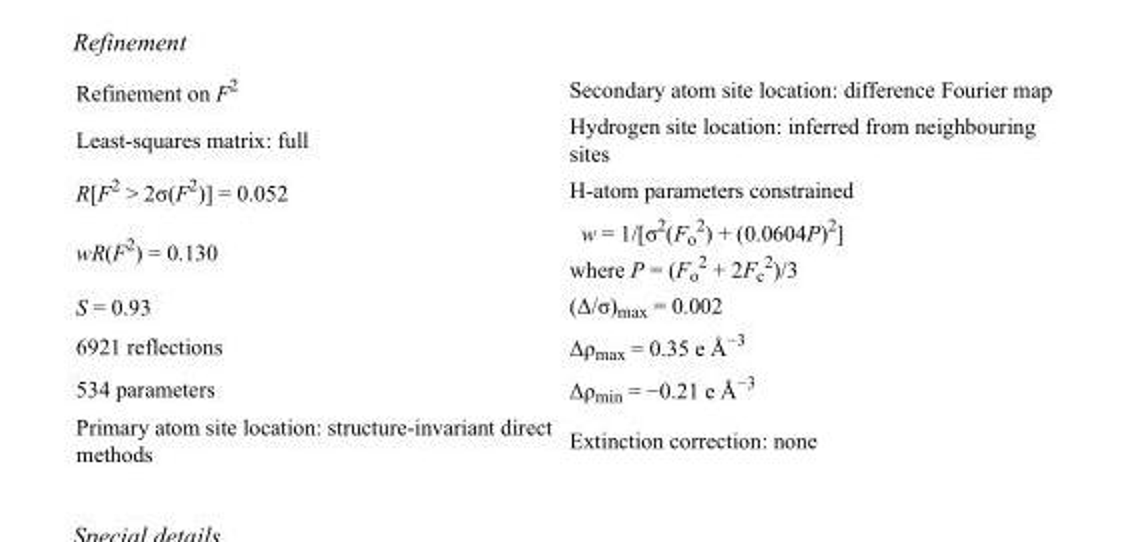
<table><tbody><tr><td>Refinement on F<sup>2</sup></td><td>Secondary atom site location: difference Fourier map</td></tr><tr><td>Least-squares matrix: full</td><td>Hydrogen site location: inferred from neighbouring sites</td></tr><tr><td>R[F<sup>2</sup> &gt; 2σ(F<sup>2</sup>)] = 0.052</td><td>H-atom parameters constrained</td></tr><tr><td>wR(F<sup>2</sup>) = 0.130</td><td>w = 1/[σ<sup>2</sup>(F<sub>o</sub> <sup>2</sup>) + (0.0604P)<sup>2</sup>] where P = (F<sub>o</sub> <sup>2</sup> + 2F<sub>c</sub> <sup>2</sup>)/3</td></tr><tr><td>S = 0.93</td><td>(Δ/σ)<sub>max</sub> = 0.002</td></tr><tr><td>6921 reflections</td><td>Δρ<sub>max</sub> = 0.35 e Å<sup>−3</sup></td></tr><tr><td>534 parameters</td><td>Δρ<sub>min</sub> = −0.21 e Å<sup>−3</sup></td></tr><tr><td>Primary atom site location: structure-invariant direct methods</td><td>Extinction correction: none</td></tr></tbody></table>